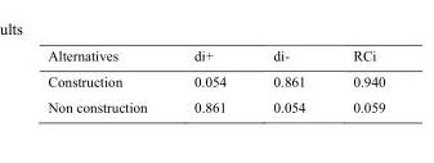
<table><thead><tr><td>Alternatives</td><td>di+</td><td>di-</td><td>RCi</td></tr></thead><tbody><tr><td>Construction</td><td>0.054</td><td>0.861</td><td>0.940</td></tr><tr><td>Non construction</td><td>0.861</td><td>0.054</td><td>0.059</td></tr></tbody></table>